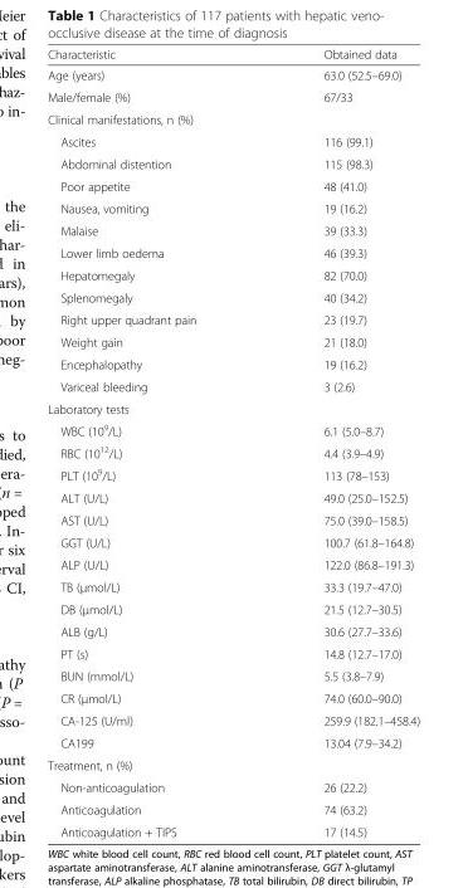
<table><thead><tr><td>Characteristic</td><td>Obtained data</td></tr></thead><tbody><tr><td>Age (years)</td><td>63.0 (52.5–69.0)</td></tr><tr><td>Male/female (%)</td><td>67/33</td></tr><tr><td colspan="2">Clinical manifestations, n (%)</td></tr><tr><td>Ascites</td><td>116 (99.1)</td></tr><tr><td>Abdominal distention</td><td>115 (98.3)</td></tr><tr><td>Poor appetite</td><td>48 (41.0)</td></tr><tr><td>Nausea, vomiting</td><td>19 (16.2)</td></tr><tr><td>Malaise</td><td>39 (33.3)</td></tr><tr><td>Lower limb oedema</td><td>46 (39.3)</td></tr><tr><td>Hepatomegaly</td><td>82 (70.0)</td></tr><tr><td>Splenomegaly</td><td>40 (34.2)</td></tr><tr><td>Right upper quadrant pain</td><td>23 (19.7)</td></tr><tr><td>Weight gain</td><td>21 (18.0)</td></tr><tr><td>Encephalopathy</td><td>19 (16.2)</td></tr><tr><td>Variceal bleeding</td><td>3 (2.6)</td></tr><tr><td colspan="2">Laboratory tests</td></tr><tr><td>WBC (10<sup>9</sup>/L)</td><td>6.1 (5.0–8.7)</td></tr><tr><td>RBC (10<sup>12</sup>/L)</td><td>4.4 (3.9–4.9)</td></tr><tr><td>PLT (10<sup>9</sup>/L)</td><td>113 (78–153)</td></tr><tr><td>ALT (U/L)</td><td>49.0 (25.0–152.5)</td></tr><tr><td>AST (U/L)</td><td>75.0 (39.0–158.5)</td></tr><tr><td>GGT (U/L)</td><td>100.7 (61.8–164.8)</td></tr><tr><td>ALP (U/L)</td><td>122.0 (86.8–191.3)</td></tr><tr><td>TB (μmol/L)</td><td>33.3 (19.7–47.0)</td></tr><tr><td>DB (μmol/L)</td><td>21.5 (12.7–30.5)</td></tr><tr><td>ALB (g/L)</td><td>30.6 (27.7–33.6)</td></tr><tr><td>PT (s)</td><td>14.8 (12.7–17.0)</td></tr><tr><td>BUN (mmol/L)</td><td>5.5 (3.8–7.9)</td></tr><tr><td>CR (μmol/L)</td><td>74.0 (60.0–90.0)</td></tr><tr><td>CA-125 (U/ml)</td><td>259.9 (182.1–458.4)</td></tr><tr><td>CA199</td><td>13.04 (7.9–34.2)</td></tr><tr><td colspan="2">Treatment, n (%)</td></tr><tr><td>Non-anticoagulation</td><td>26 (22.2)</td></tr><tr><td>Anticoagulation</td><td>74 (63.2)</td></tr><tr><td>Anticoagulation + TIPS</td><td>17 (14.5)</td></tr></tbody></table>